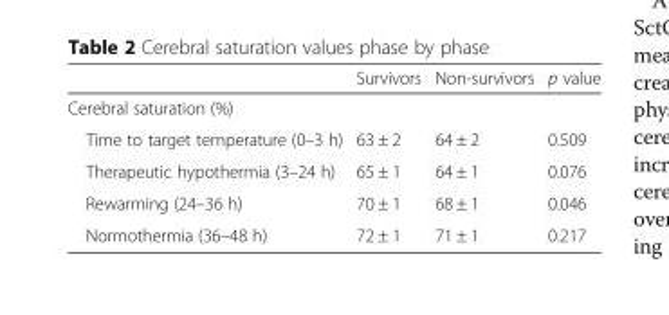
<table><thead><tr><td></td><td>Survivors</td><td>Non-survivors</td><td>p value</td></tr></thead><tbody><tr><td colspan="4">Cerebral saturation (%)</td></tr><tr><td>Time to target temperature (0–3 h)</td><td>63 ± 2</td><td>64 ± 2</td><td>0.509</td></tr><tr><td>Therapeutic hypothermia (3–24 h)</td><td>65 ± 1</td><td>64 ± 1</td><td>0.076</td></tr><tr><td>Rewarming (24–36 h)</td><td>70 ± 1</td><td>68 ± 1</td><td>0.046</td></tr><tr><td>Normothermia (36–48 h)</td><td>72 ± 1</td><td>71 ± 1</td><td>0.217</td></tr></tbody></table>